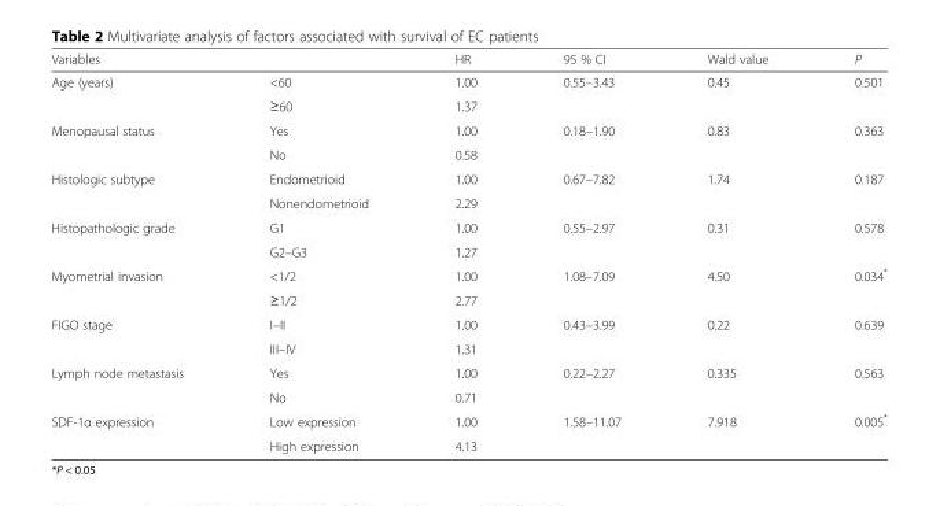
<table><thead><tr><td>Variables</td><td></td><td>HR</td><td>95 % CI</td><td>Wald value</td><td>P</td></tr></thead><tbody><tr><td rowspan="2">Age (years)</td><td>&lt;60</td><td>1.00</td><td rowspan="2">0.55–3.43</td><td rowspan="2">0.45</td><td rowspan="2">0.501</td></tr><tr><td>≥60</td><td>1.37</td></tr><tr><td rowspan="2">Menopausal status</td><td>Yes</td><td>1.00</td><td rowspan="2">0.18–1.90</td><td rowspan="2">0.83</td><td rowspan="2">0.363</td></tr><tr><td>No</td><td>0.58</td></tr><tr><td rowspan="2">Histologic subtype</td><td>Endometrioid</td><td>1.00</td><td rowspan="2">0.67–7.82</td><td rowspan="2">1.74</td><td rowspan="2">0.187</td></tr><tr><td>Nonendometrioid</td><td>2.29</td></tr><tr><td rowspan="2">Histopathologic grade</td><td>G1</td><td>1.00</td><td rowspan="2">0.55–2.97</td><td rowspan="2">0.31</td><td rowspan="2">0.578</td></tr><tr><td>G2–G3</td><td>1.27</td></tr><tr><td rowspan="2">Myometrial invasion</td><td>&lt;1/2</td><td>1.00</td><td rowspan="2">1.08–7.09</td><td rowspan="2">4.50</td><td rowspan="2">0.034*</td></tr><tr><td>≥1/2</td><td>2.77</td></tr><tr><td rowspan="2">FIGO stage</td><td>I–II</td><td>1.00</td><td rowspan="2">0.43–3.99</td><td rowspan="2">0.22</td><td rowspan="2">0.639</td></tr><tr><td>III–IV</td><td>1.31</td></tr><tr><td rowspan="2">Lymph node metastasis</td><td>Yes</td><td>1.00</td><td rowspan="2">0.22–2.27</td><td rowspan="2">0.335</td><td rowspan="2">0.563</td></tr><tr><td>No</td><td>0.71</td></tr><tr><td rowspan="2">SDF-1α expression</td><td>Low expression</td><td>1.00</td><td rowspan="2">1.58–11.07</td><td rowspan="2">7.918</td><td rowspan="2">0.005*</td></tr><tr><td>High expression</td><td>4.13</td></tr></tbody></table>